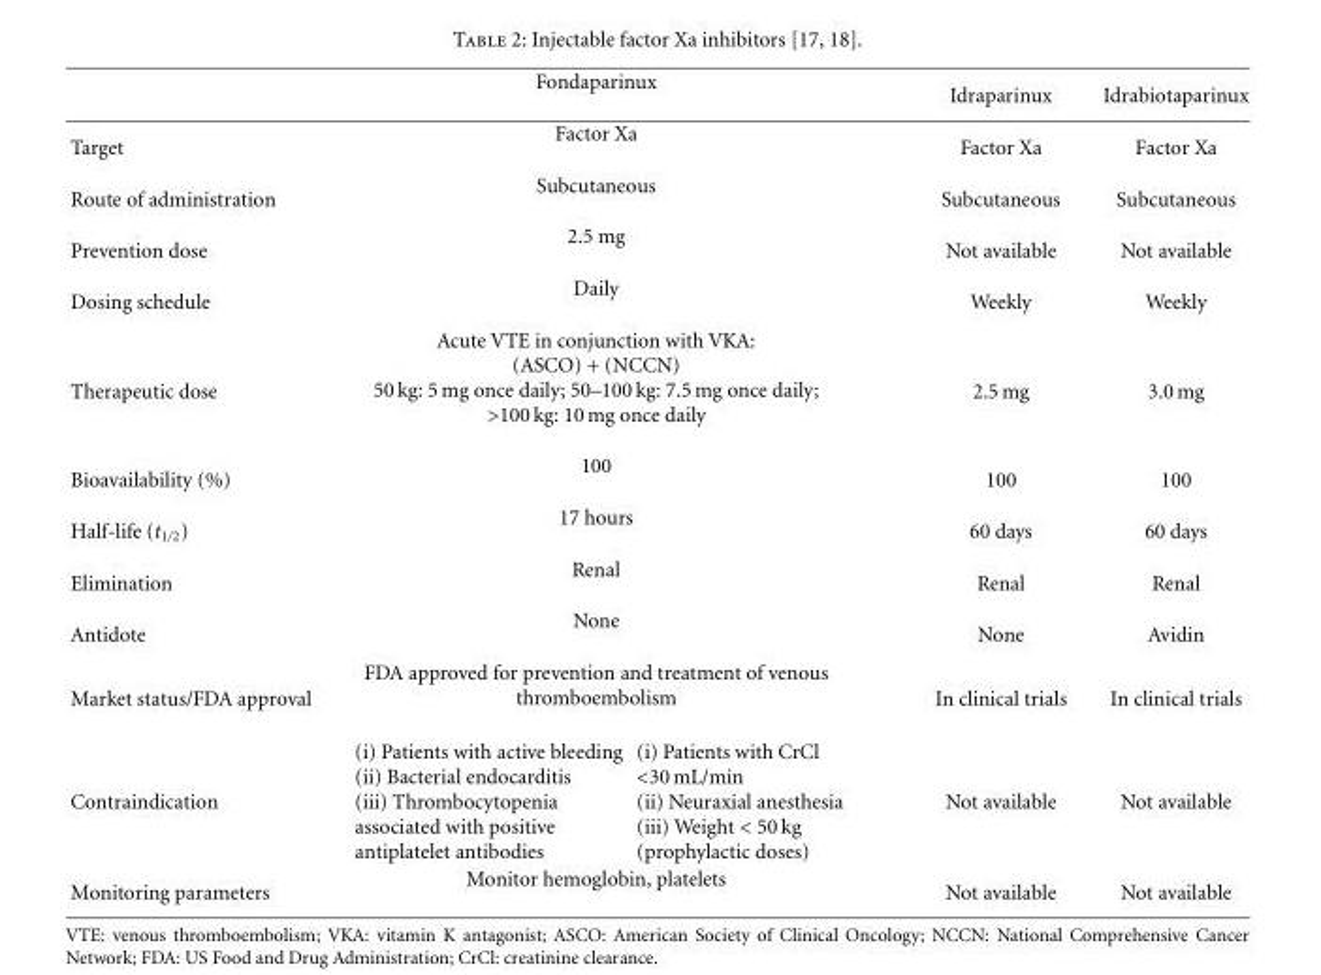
<table><thead><tr><td></td><td colspan="2">Fondaparinux</td><td>Idraparinux</td><td>Idrabiotaparinux</td></tr></thead><tbody><tr><td>Target</td><td colspan="2">Factor Xa</td><td>Factor Xa</td><td>Factor Xa</td></tr><tr><td>Route of administration</td><td colspan="2">Subcutaneous</td><td>Subcutaneous</td><td>Subcutaneous</td></tr><tr><td>Prevention dose</td><td colspan="2">2.5 mg</td><td>Not available</td><td>Not available</td></tr><tr><td>Dosing schedule</td><td colspan="2">Daily</td><td>Weekly</td><td>Weekly</td></tr><tr><td>Therapeutic dose</td><td colspan="2">Acute VTE in conjunction with VKA: (ASCO) + (NCCN) 50 kg: 5 mg once daily; 50–100 kg: 7.5 mg once daily; &gt;100 kg: 10 mg once daily</td><td>2.5 mg</td><td>3.0 mg</td></tr><tr><td>Bioavailability (%)</td><td colspan="2">100</td><td>100</td><td>100</td></tr><tr><td>Half-life (t<sub>1/2</sub>)</td><td colspan="2">17 hours</td><td>60 days</td><td>60 days</td></tr><tr><td>Elimination</td><td colspan="2">Renal</td><td>Renal</td><td>Renal</td></tr><tr><td>Antidote</td><td colspan="2">None</td><td>None</td><td>Avidin</td></tr><tr><td>Market status/FDA approval</td><td colspan="2">FDA approved for prevention and treatment of venous thromboembolism</td><td>In clinical trials</td><td>In clinical trials</td></tr><tr><td>Contraindication</td><td>(i) Patients with active bleeding (ii) Bacterial endocarditis (iii) Thrombocytopenia associated with positive antiplatelet antibodies</td><td>(i) Patients with CrCl &lt;30 mL/min (ii) Neuraxial anesthesia (iii) Weight &lt; 50 kg (prophylactic doses)</td><td>Not available</td><td>Not available</td></tr><tr><td>Monitoring parameters</td><td colspan="2">Monitor hemoglobin, platelets</td><td>Not available</td><td>Not available</td></tr></tbody></table>